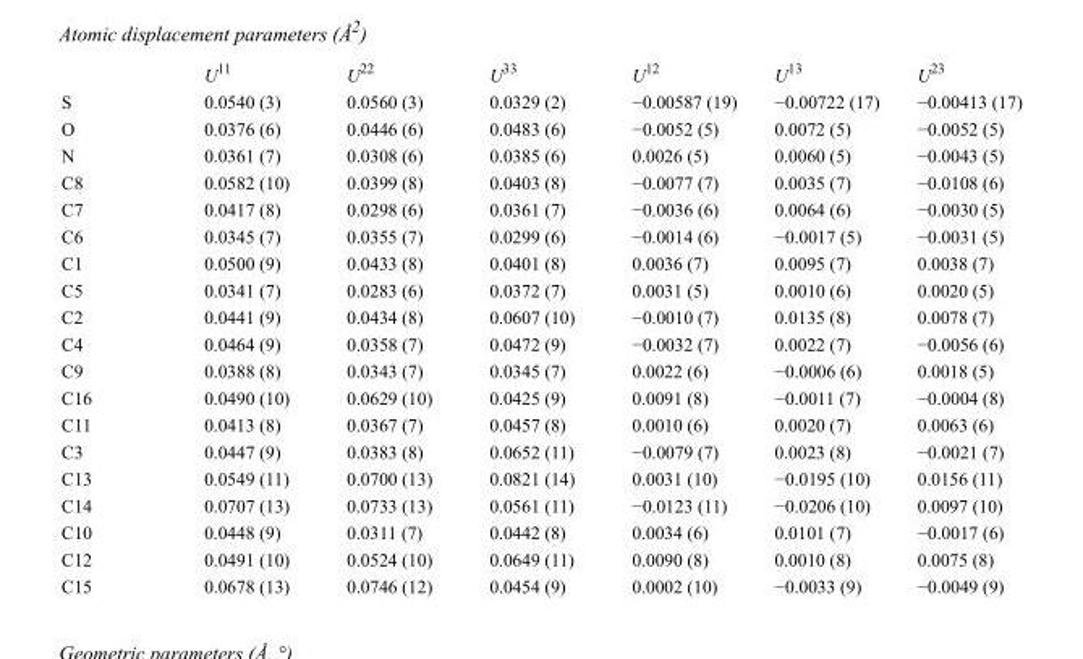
<table><thead><tr><td></td><td>U<sup>11</sup></td><td>U<sup>22</sup></td><td>U<sup>33</sup></td><td>U<sup>12</sup></td><td>U<sup>13</sup></td><td>U<sup>23</sup></td></tr></thead><tbody><tr><td>S</td><td>0.0540 (3)</td><td>0.0560 (3)</td><td>0.0329 (2)</td><td>−0.00587 (19)</td><td>−0.00722 (17)</td><td>−0.00413 (17)</td></tr><tr><td>O</td><td>0.0376 (6)</td><td>0.0446 (6)</td><td>0.0483 (6)</td><td>−0.0052 (5)</td><td>0.0072 (5)</td><td>−0.0052 (5)</td></tr><tr><td>N</td><td>0.0361 (7)</td><td>0.0308 (6)</td><td>0.0385 (6)</td><td>0.0026 (5)</td><td>0.0060 (5)</td><td>−0.0043 (5)</td></tr><tr><td>C8</td><td>0.0582 (10)</td><td>0.0399 (8)</td><td>0.0403 (8)</td><td>−0.0077 (7)</td><td>0.0035 (7)</td><td>−0.0108 (6)</td></tr><tr><td>C7</td><td>0.0417 (8)</td><td>0.0298 (6)</td><td>0.0361 (7)</td><td>−0.0036 (6)</td><td>0.0064 (6)</td><td>−0.0030 (5)</td></tr><tr><td>C6</td><td>0.0345 (7)</td><td>0.0355 (7)</td><td>0.0299 (6)</td><td>−0.0014 (6)</td><td>−0.0017 (5)</td><td>−0.0031 (5)</td></tr><tr><td>C1</td><td>0.0500 (9)</td><td>0.0433 (8)</td><td>0.0401 (8)</td><td>0.0036 (7)</td><td>0.0095 (7)</td><td>0.0038 (7)</td></tr><tr><td>C5</td><td>0.0341 (7)</td><td>0.0283 (6)</td><td>0.0372 (7)</td><td>0.0031 (5)</td><td>0.0010 (6)</td><td>0.0020 (5)</td></tr><tr><td>C2</td><td>0.0441 (9)</td><td>0.0434 (8)</td><td>0.0607 (10)</td><td>−0.0010 (7)</td><td>0.0135 (8)</td><td>0.0078 (7)</td></tr><tr><td>C4</td><td>0.0464 (9)</td><td>0.0358 (7)</td><td>0.0472 (9)</td><td>−0.0032 (7)</td><td>0.0022 (7)</td><td>−0.0056 (6)</td></tr><tr><td>C9</td><td>0.0388 (8)</td><td>0.0343 (7)</td><td>0.0345 (7)</td><td>0.0022 (6)</td><td>−0.0006 (6)</td><td>0.0018 (5)</td></tr><tr><td>C16</td><td>0.0490 (10)</td><td>0.0629 (10)</td><td>0.0425 (9)</td><td>0.0091 (8)</td><td>−0.0011 (7)</td><td>−0.0004 (8)</td></tr><tr><td>C11</td><td>0.0413 (8)</td><td>0.0367 (7)</td><td>0.0457 (8)</td><td>0.0010 (6)</td><td>0.0020 (7)</td><td>0.0063 (6)</td></tr><tr><td>C3</td><td>0.0447 (9)</td><td>0.0383 (8)</td><td>0.0652 (11)</td><td>−0.0079 (7)</td><td>0.0023 (8)</td><td>−0.0021 (7)</td></tr><tr><td>C13</td><td>0.0549 (11)</td><td>0.0700 (13)</td><td>0.0821 (14)</td><td>0.0031 (10)</td><td>−0.0195 (10)</td><td>0.0156 (11)</td></tr><tr><td>C14</td><td>0.0707 (13)</td><td>0.0733 (13)</td><td>0.0561 (11)</td><td>−0.0123 (11)</td><td>−0.0206 (10)</td><td>0.0097 (10)</td></tr><tr><td>C10</td><td>0.0448 (9)</td><td>0.0311 (7)</td><td>0.0442 (8)</td><td>0.0034 (6)</td><td>0.0101 (7)</td><td>−0.0017 (6)</td></tr><tr><td>C12</td><td>0.0491 (10)</td><td>0.0524 (10)</td><td>0.0649 (11)</td><td>0.0090 (8)</td><td>0.0010 (8)</td><td>0.0075 (8)</td></tr><tr><td>C15</td><td>0.0678 (13)</td><td>0.0746 (12)</td><td>0.0454 (9)</td><td>0.0002 (10)</td><td>−0.0033 (9)</td><td>−0.0049 (9)</td></tr></tbody></table>